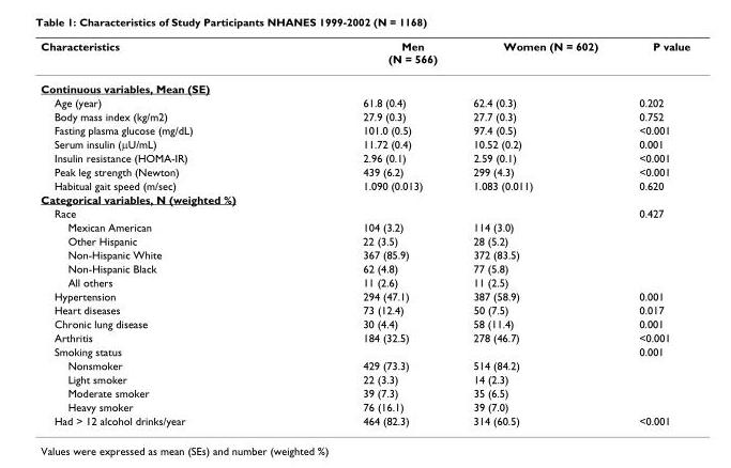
<table><thead><tr><td>Characteristics</td><td>Men (N = 566)</td><td>Women (N = 602)</td><td>P value</td></tr></thead><tbody><tr><td colspan="4">Continuous variables, Mean (SE)</td></tr><tr><td>Age (year)</td><td>61.8 (0.4)</td><td>62.4 (0.3)</td><td>0.202</td></tr><tr><td>Body mass index (kg/m2)</td><td>27.9 (0.3)</td><td>27.7 (0.3)</td><td>0.752</td></tr><tr><td>Fasting plasma glucose (mg/dL)</td><td>101.0 (0.5)</td><td>97.4 (0.5)</td><td>&lt;0.001</td></tr><tr><td>Serum insulin (μU/mL)</td><td>11.72 (0.4)</td><td>10.52 (0.2)</td><td>0.001</td></tr><tr><td>Insulin resistance (HOMA-IR)</td><td>2.96 (0.1)</td><td>2.59 (0.1)</td><td>&lt;0.001</td></tr><tr><td>Peak leg strength (Newton)</td><td>439 (6.2)</td><td>299 (4.3)</td><td>&lt;0.001</td></tr><tr><td>Habitual gait speed (m/sec)</td><td>1.090 (0.013)</td><td>1.083 (0.011)</td><td>0.620</td></tr><tr><td colspan="4">Categorical variables, N (weighted %)</td></tr><tr><td>Race</td><td></td><td></td><td>0.427</td></tr><tr><td>Mexican American</td><td>104 (3.2)</td><td>114 (3.0)</td><td></td></tr><tr><td>Other Hispanic</td><td>22 (3.5)</td><td>28 (5.2)</td><td></td></tr><tr><td>Non-Hispanic White</td><td>367 (85.9)</td><td>372 (83.5)</td><td></td></tr><tr><td>Non-Hispanic Black</td><td>62 (4.8)</td><td>77 (5.8)</td><td></td></tr><tr><td>All others</td><td>11 (2.6)</td><td>11 (2.5)</td><td></td></tr><tr><td>Hypertension</td><td>294 (47.1)</td><td>387 (58.9)</td><td>0.001</td></tr><tr><td>Heart diseases</td><td>73 (12.4)</td><td>50 (7.5)</td><td>0.017</td></tr><tr><td>Chronic lung disease</td><td>30 (4.4)</td><td>58 (11.4)</td><td>0.001</td></tr><tr><td>Arthritis</td><td>184 (32.5)</td><td>278 (46.7)</td><td>&lt;0.001</td></tr><tr><td>Smoking status</td><td></td><td></td><td>0.001</td></tr><tr><td>Nonsmoker</td><td>429 (73.3)</td><td>514 (84.2)</td><td></td></tr><tr><td>Light smoker</td><td>22 (3.3)</td><td>14 (2.3)</td><td></td></tr><tr><td>Moderate smoker</td><td>39 (7.3)</td><td>35 (6.5)</td><td></td></tr><tr><td>Heavy smoker</td><td>76 (16.1)</td><td>39 (7.0)</td><td></td></tr><tr><td>Had &gt; 12 alcohol drinks/year</td><td>464 (82.3)</td><td>314 (60.5)</td><td>&lt;0.001</td></tr></tbody></table>